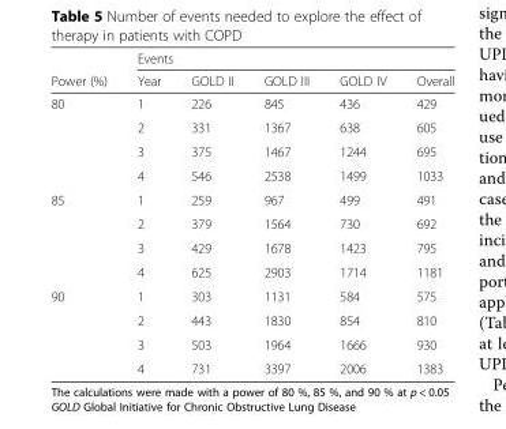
<table><thead><tr><td rowspan="2">Power (%)</td><td colspan="5">Events</td></tr><tr><td>Year</td><td>GOLD II</td><td>GOLD III</td><td>GOLD IV</td><td>Overall</td></tr></thead><tbody><tr><td rowspan="4">80</td><td>1</td><td>226</td><td>845</td><td>436</td><td>429</td></tr><tr><td>2</td><td>331</td><td>1367</td><td>638</td><td>605</td></tr><tr><td>3</td><td>375</td><td>1467</td><td>1244</td><td>695</td></tr><tr><td>4</td><td>546</td><td>2538</td><td>1499</td><td>1033</td></tr><tr><td rowspan="4">85</td><td>1</td><td>259</td><td>967</td><td>499</td><td>491</td></tr><tr><td>2</td><td>379</td><td>1564</td><td>730</td><td>692</td></tr><tr><td>3</td><td>429</td><td>1678</td><td>1423</td><td>795</td></tr><tr><td>4</td><td>625</td><td>2903</td><td>1714</td><td>1181</td></tr><tr><td rowspan="4">90</td><td>1</td><td>303</td><td>1131</td><td>584</td><td>575</td></tr><tr><td>2</td><td>443</td><td>1830</td><td>854</td><td>810</td></tr><tr><td>3</td><td>503</td><td>1964</td><td>1666</td><td>930</td></tr><tr><td>4</td><td>731</td><td>3397</td><td>2006</td><td>1383</td></tr></tbody></table>